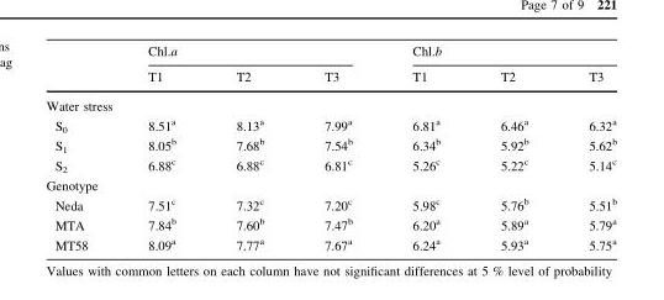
<table><thead><tr><td rowspan="2"></td><td colspan="3">Chl.a</td><td colspan="3">Chl.b</td></tr><tr><td>T1</td><td>T2</td><td>T3</td><td>T1</td><td>T2</td><td>T3</td></tr></thead><tbody><tr><td colspan="7">Water stress</td></tr><tr><td>S<sub>0</sub></td><td>8.51<sup>a</sup></td><td>8.13<sup>a</sup></td><td>7.99<sup>a</sup></td><td>6.81<sup>a</sup></td><td>6.46<sup>a</sup></td><td>6.32<sup>a</sup></td></tr><tr><td>S<sub>1</sub></td><td>8.05<sup>b</sup></td><td>7.68<sup>b</sup></td><td>7.54<sup>b</sup></td><td>6.34<sup>b</sup></td><td>5.92<sup>b</sup></td><td>5.62<sup>b</sup></td></tr><tr><td>S<sub>2</sub></td><td>6.88<sup>c</sup></td><td>6.88<sup>c</sup></td><td>6.81<sup>c</sup></td><td>5.26<sup>c</sup></td><td>5.22<sup>c</sup></td><td>5.14<sup>c</sup></td></tr><tr><td colspan="7">Genotype</td></tr><tr><td>Neda</td><td>7.51<sup>c</sup></td><td>7.32<sup>c</sup></td><td>7.20<sup>c</sup></td><td>5.98<sup>c</sup></td><td>5.76<sup>b</sup></td><td>5.51<sup>b</sup></td></tr><tr><td>MTA</td><td>7.84<sup>b</sup></td><td>7.60<sup>b</sup></td><td>7.47<sup>b</sup></td><td>6.20<sup>a</sup></td><td>5.89<sup>a</sup></td><td>5.79<sup>a</sup></td></tr><tr><td>MT58</td><td>8.09<sup>a</sup></td><td>7.77<sup>a</sup></td><td>7.67<sup>a</sup></td><td>6.24<sup>a</sup></td><td>5.93<sup>a</sup></td><td>5.75<sup>a</sup></td></tr></tbody></table>